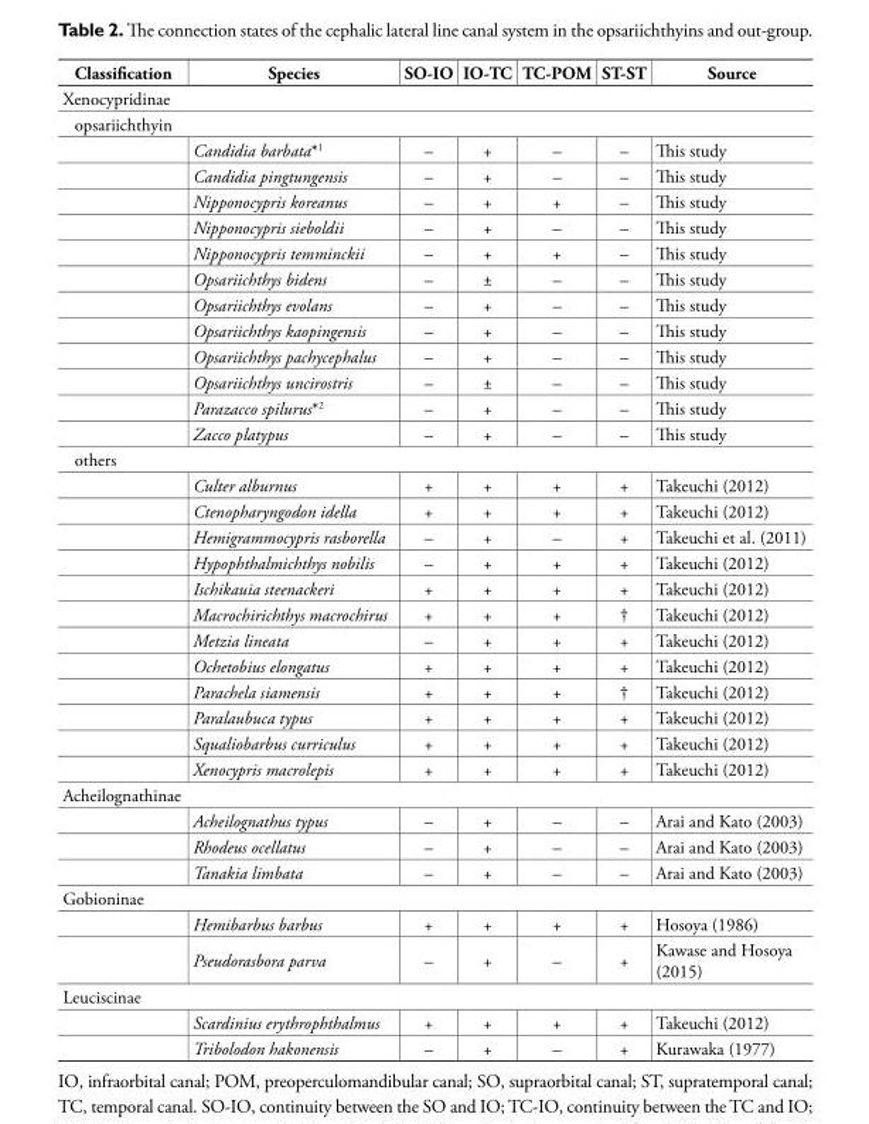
<table><tbody><tr><td>Classification</td><td>Species</td><td>SO-IO</td><td>IO-TC</td><td>TC-POM</td><td>ST-ST</td><td>Source</td></tr><tr><td colspan="7">Xenocypridinae</td></tr><tr><td colspan="7">opsariichthyin</td></tr><tr><td></td><td>Candidia barbata*<sup>1</sup></td><td>–</td><td>+</td><td>–</td><td>–</td><td>This study</td></tr><tr><td></td><td>Candidia pingtungensis</td><td>–</td><td>+</td><td>–</td><td>–</td><td>This study</td></tr><tr><td></td><td>Nipponocypris koreanus</td><td>–</td><td>+</td><td>+</td><td>–</td><td>This study</td></tr><tr><td></td><td>Nipponocypris sieboldii</td><td>–</td><td>+</td><td>–</td><td>–</td><td>This study</td></tr><tr><td></td><td>Nipponocypris temminckii</td><td>–</td><td>+</td><td>+</td><td>–</td><td>This study</td></tr><tr><td></td><td>Opsariichthys bidens</td><td>–</td><td>±</td><td>–</td><td>–</td><td>This study</td></tr><tr><td></td><td>Opsariichthys evolans</td><td>–</td><td>+</td><td>–</td><td>–</td><td>This study</td></tr><tr><td></td><td>Opsariichthys kaopingensis</td><td>–</td><td>+</td><td>–</td><td>–</td><td>This study</td></tr><tr><td></td><td>Opsariichthys pachycephalus</td><td>–</td><td>+</td><td>–</td><td>–</td><td>This study</td></tr><tr><td></td><td>Opsariichthys uncirostris</td><td>–</td><td>±</td><td>–</td><td>–</td><td>This study</td></tr><tr><td></td><td>Parazacco spilurus*<sup>2</sup></td><td>–</td><td>+</td><td>–</td><td>–</td><td>This study</td></tr><tr><td></td><td>Zacco platypus</td><td>–</td><td>+</td><td>–</td><td>–</td><td>This study</td></tr><tr><td colspan="7">others</td></tr><tr><td></td><td>Culter alburnus</td><td>+</td><td>+</td><td>+</td><td>+</td><td>Takeuchi (2012)</td></tr><tr><td></td><td>Ctenopharyngodon idella</td><td>+</td><td>+</td><td>+</td><td>+</td><td>Takeuchi (2012)</td></tr><tr><td></td><td>Hemigrammocypris rasborella</td><td>–</td><td>+</td><td>–</td><td>+</td><td>Takeuchi et al. (2011)</td></tr><tr><td></td><td>Hypophthalmichthys nobilis</td><td>–</td><td>+</td><td>+</td><td>+</td><td>Takeuchi (2012)</td></tr><tr><td></td><td>Ischikauia steenackeri</td><td>+</td><td>+</td><td>+</td><td>+</td><td>Takeuchi (2012)</td></tr><tr><td></td><td>Macrochirichthys macrochirus</td><td>+</td><td>+</td><td>+</td><td>†</td><td>Takeuchi (2012)</td></tr><tr><td></td><td>Metzia lineata</td><td>–</td><td>+</td><td>+</td><td>+</td><td>Takeuchi (2012)</td></tr><tr><td></td><td>Ochetobius elongatus</td><td>+</td><td>+</td><td>+</td><td>+</td><td>Takeuchi (2012)</td></tr><tr><td></td><td>Parachela siamensis</td><td>+</td><td>+</td><td>+</td><td>†</td><td>Takeuchi (2012)</td></tr><tr><td></td><td>Paralaubuca typus</td><td>+</td><td>+</td><td>+</td><td>+</td><td>Takeuchi (2012)</td></tr><tr><td></td><td>Squaliobarbus curriculus</td><td>+</td><td>+</td><td>+</td><td>+</td><td>Takeuchi (2012)</td></tr><tr><td></td><td>Xenocypris macrolepis</td><td>+</td><td>+</td><td>+</td><td>+</td><td>Takeuchi (2012)</td></tr><tr><td colspan="7">Acheilognathinae</td></tr><tr><td></td><td>Acheilognathus typus</td><td>–</td><td>+</td><td>–</td><td>–</td><td>Arai and Kato (2003)</td></tr><tr><td></td><td>Rhodeus ocellatus</td><td>–</td><td>+</td><td>–</td><td>–</td><td>Arai and Kato (2003)</td></tr><tr><td></td><td>Tanakia limbata</td><td>–</td><td>+</td><td>–</td><td>–</td><td>Arai and Kato (2003)</td></tr><tr><td colspan="7">Gobioninae</td></tr><tr><td></td><td>Hemibarbus barbus</td><td>+</td><td>+</td><td>+</td><td>+</td><td>Hosoya (1986)</td></tr><tr><td></td><td>Pseudorasbora parva</td><td>–</td><td>+</td><td>–</td><td>+</td><td>Kawase and Hosoya (2015)</td></tr><tr><td colspan="7">Leuciscinae</td></tr><tr><td></td><td>Scardinius erythrophthalmus</td><td>+</td><td>+</td><td>+</td><td>+</td><td>Takeuchi (2012)</td></tr><tr><td></td><td>Tribolodon hakonensis</td><td>–</td><td>+</td><td>–</td><td>+</td><td>Kurawaka (1977)</td></tr></tbody></table>